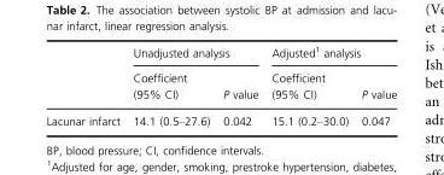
<table><thead><tr><td rowspan="2"></td><td colspan="2">Unadjusted analysis</td><td colspan="2">Adjusted<sup>1</sup> analysis</td></tr><tr><td>Coefficient (95% CI)</td><td>P value</td><td>Coefficient (95% CI)</td><td>P value</td></tr></thead><tbody><tr><td>Lacunar infarct</td><td>14.1 (0.5–27.6)</td><td>0.042</td><td>15.1 (0.2–30.0)</td><td>0.047</td></tr></tbody></table>